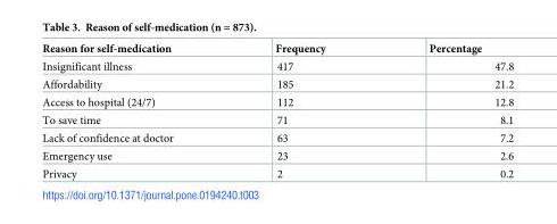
<table><thead><tr><td>Reason for self-medication</td><td>Frequency</td><td>Percentage</td></tr></thead><tbody><tr><td>Insignificant illness</td><td>417</td><td>47.8</td></tr><tr><td>Affordability</td><td>185</td><td>21.2</td></tr><tr><td>Access to hospital (24/7)</td><td>112</td><td>12.8</td></tr><tr><td>To save time</td><td>71</td><td>8.1</td></tr><tr><td>Lack of confidence at doctor</td><td>63</td><td>7.2</td></tr><tr><td>Emergency use</td><td>23</td><td>2.6</td></tr><tr><td>Privacy</td><td>2</td><td>0.2</td></tr></tbody></table>